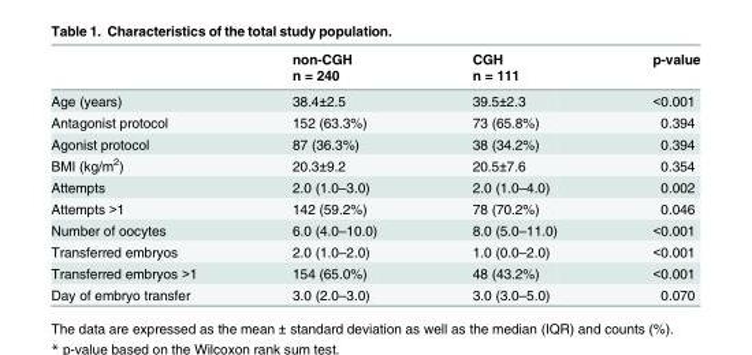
<table><thead><tr><td rowspan="2"></td><td rowspan="2">non-CGH n = 240</td><td rowspan="2">CGH n = 111</td><td rowspan="2">p-value</td></tr><tr></tr></thead><tbody><tr><td>Age (years)</td><td>38.4±2.5</td><td>39.5±2.3</td><td>&lt;0.001</td></tr><tr><td>Antagonist protocol</td><td>152 (63.3%)</td><td>73 (65.8%)</td><td>0.394</td></tr><tr><td>Agonist protocol</td><td>87 (36.3%)</td><td>38 (34.2%)</td><td>0.394</td></tr><tr><td>BMI (kg/m<sup>2</sup>)</td><td>20.3±9.2</td><td>20.5±7.6</td><td>0.354</td></tr><tr><td>Attempts</td><td>2.0 (1.0–3.0)</td><td>2.0 (1.0–4.0)</td><td>0.002</td></tr><tr><td>Attempts &gt;1</td><td>142 (59.2%)</td><td>78 (70.2%)</td><td>0.046</td></tr><tr><td>Number of oocytes</td><td>6.0 (4.0–10.0)</td><td>8.0 (5.0–11.0)</td><td>&lt;0.001</td></tr><tr><td>Transferred embryos</td><td>2.0 (1.0–2.0)</td><td>1.0 (0.0–2.0)</td><td>&lt;0.001</td></tr><tr><td>Transferred embryos &gt;1</td><td>154 (65.0%)</td><td>48 (43.2%)</td><td>&lt;0.001</td></tr><tr><td>Day of embryo transfer</td><td>3.0 (2.0–3.0)</td><td>3.0 (3.0–5.0)</td><td>0.070</td></tr></tbody></table>